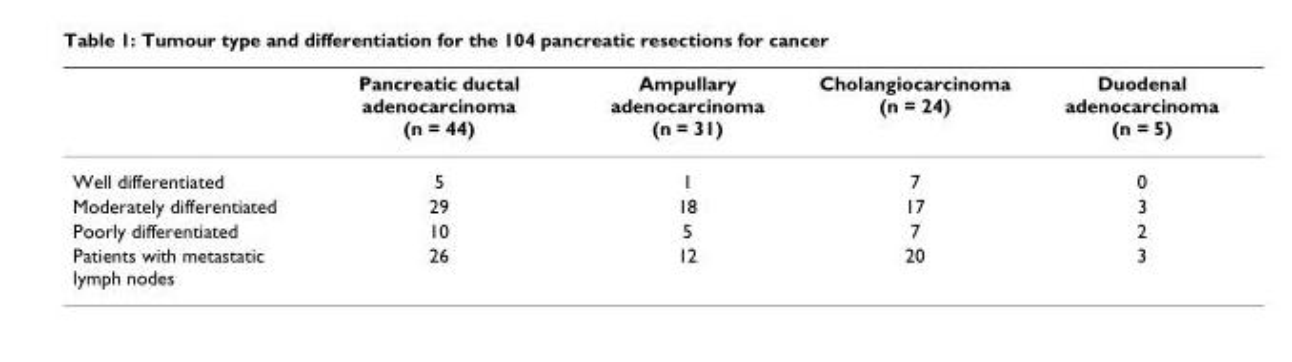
<table><thead><tr><td></td><td>Pancreatic ductal adenocarcinoma (n = 44)</td><td>Ampullary adenocarcinoma (n = 31)</td><td>Cholangiocarcinoma (n = 24)</td><td>Duodenal adenocarcinoma (n = 5)</td></tr></thead><tbody><tr><td>Well differentiated</td><td>5</td><td>1</td><td>7</td><td>0</td></tr><tr><td>Moderately differentiated</td><td>29</td><td>18</td><td>17</td><td>3</td></tr><tr><td>Poorly differentiated</td><td>10</td><td>5</td><td>7</td><td>2</td></tr><tr><td>Patients with metastatic lymph nodes</td><td>26</td><td>12</td><td>20</td><td>3</td></tr></tbody></table>